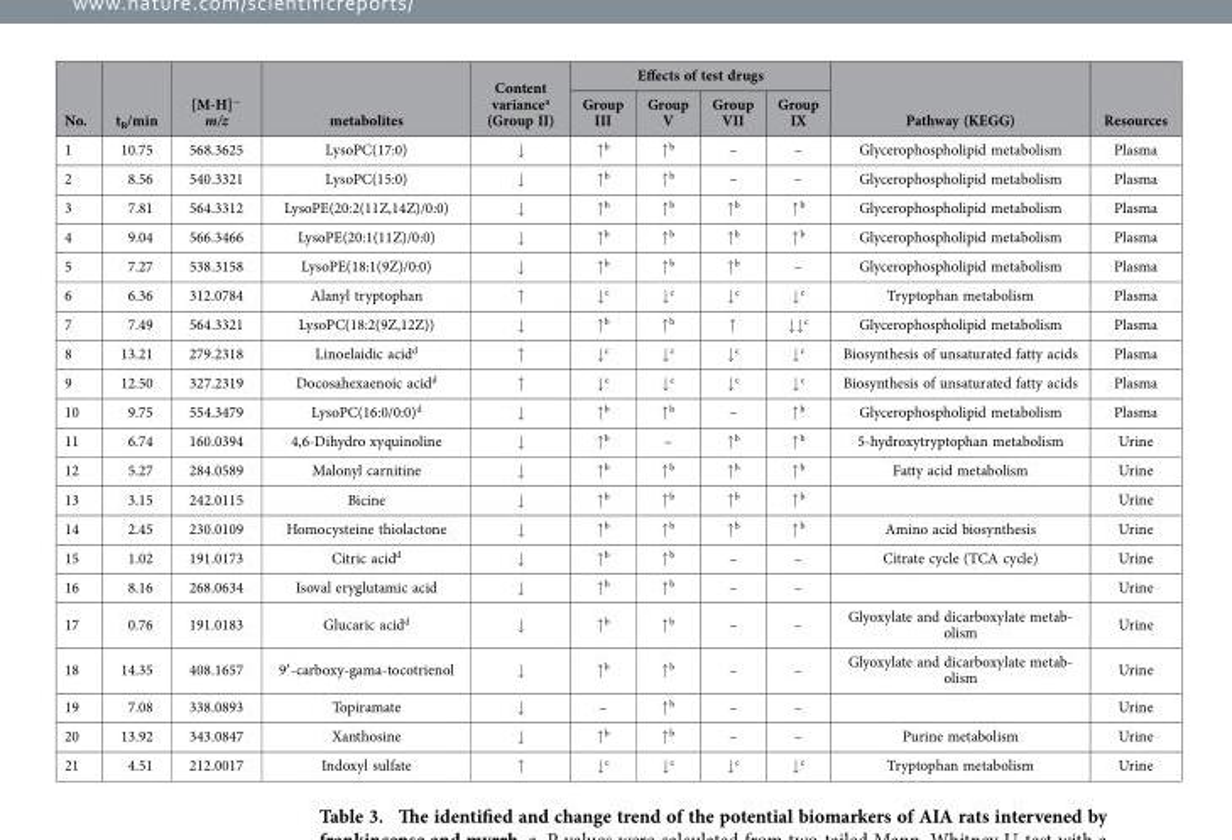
<table><thead><tr><td rowspan="2">No.</td><td rowspan="2">t<sub>R</sub>/min</td><td rowspan="2">[M-H]<sup>−</sup> m/z</td><td rowspan="2">metabolites</td><td rowspan="2">Content variance<sup>a</sup> (Group II)</td><td colspan="4">Effects of test drugs</td><td rowspan="2">Pathway (KEGG)</td><td rowspan="2">Resources</td></tr><tr><td>Group III</td><td>Group V</td><td>Group VII</td><td>Group IX</td></tr></thead><tbody><tr><td>1</td><td>10.75</td><td>568.3625</td><td>LysoPC(17:0)</td><td>↓</td><td>↑ <sup>b</sup></td><td>↑ <sup>b</sup></td><td>–</td><td>–</td><td>Glycerophospholipid metabolism</td><td>Plasma</td></tr><tr><td>2</td><td>8.56</td><td>540.3321</td><td>LysoPC(15:0)</td><td>↓</td><td>↑ <sup>b</sup></td><td>↑ <sup>b</sup></td><td>–</td><td>–</td><td>Glycerophospholipid metabolism</td><td>Plasma</td></tr><tr><td>3</td><td>7.81</td><td>564.3312</td><td>LysoPE(20:2(11Z,14Z)/0:0)</td><td>↓</td><td>↑ <sup>b</sup></td><td>↑ <sup>b</sup></td><td>↑ <sup>b</sup></td><td>↑ <sup>b</sup></td><td>Glycerophospholipid metabolism</td><td>Plasma</td></tr><tr><td>4</td><td>9.04</td><td>566.3466</td><td>LysoPE(20:1(11Z)/0:0)</td><td>↓</td><td>↑ <sup>b</sup></td><td>↑ <sup>b</sup></td><td>↑ <sup>b</sup></td><td>↑ <sup>b</sup></td><td>Glycerophospholipid metabolism</td><td>Plasma</td></tr><tr><td>5</td><td>7.27</td><td>538.3158</td><td>LysoPE(18:1(9Z)/0:0)</td><td>↓</td><td>↑ <sup>b</sup></td><td>↑ <sup>b</sup></td><td>↑ <sup>b</sup></td><td>–</td><td>Glycerophospholipid metabolism</td><td>Plasma</td></tr><tr><td>6</td><td>6.36</td><td>312.0784</td><td>Alanyl tryptophan</td><td>↑</td><td>↓ <sup>c</sup></td><td>↓ <sup>c</sup></td><td>↓ <sup>c</sup></td><td>↓ <sup>c</sup></td><td>Tryptophan metabolism</td><td>Plasma</td></tr><tr><td>7</td><td>7.49</td><td>564.3321</td><td>LysoPC(18:2(9Z,12Z))</td><td>↓</td><td>↑ <sup>b</sup></td><td>↑ <sup>b</sup></td><td>↑</td><td>↓ ↓ <sup>c</sup></td><td>Glycerophospholipid metabolism</td><td>Plasma</td></tr><tr><td>8</td><td>13.21</td><td>279.2318</td><td>Linoelaidic acid<sup>d</sup></td><td>↑</td><td>↓ <sup>c</sup></td><td>↓ <sup>c</sup></td><td>↓ <sup>c</sup></td><td>↓ <sup>c</sup></td><td>Biosynthesis of unsaturated fatty acids</td><td>Plasma</td></tr><tr><td>9</td><td>12.50</td><td>327.2319</td><td>Docosahexaenoic acid<sup>d</sup></td><td>↑</td><td>↓ <sup>c</sup></td><td>↓ <sup>c</sup></td><td>↓ <sup>c</sup></td><td>↓ <sup>c</sup></td><td>Biosynthesis of unsaturated fatty acids</td><td>Plasma</td></tr><tr><td>10</td><td>9.75</td><td>554.3479</td><td>LysoPC(16:0/0:0)<sup>d</sup></td><td>↓</td><td>↑ <sup>b</sup></td><td>↑ <sup>b</sup></td><td>–</td><td>↑ <sup>b</sup></td><td>Glycerophospholipid metabolism</td><td>Plasma</td></tr><tr><td>11</td><td>6.74</td><td>160.0394</td><td>4,6-Dihydro xyquinoline</td><td>↓</td><td>↑ <sup>b</sup></td><td>–</td><td>↑ <sup>b</sup></td><td>↑ <sup>b</sup></td><td>5-hydroxytryptophan metabolism</td><td>Urine</td></tr><tr><td>12</td><td>5.27</td><td>284.0589</td><td>Malonyl carnitine</td><td>↓</td><td>↑ <sup>b</sup></td><td>↑ <sup>b</sup></td><td>↑ <sup>b</sup></td><td>↑ <sup>b</sup></td><td>Fatty acid metabolism</td><td>Urine</td></tr><tr><td>13</td><td>3.15</td><td>242.0115</td><td>Bicine</td><td>↓</td><td>↑ <sup>b</sup></td><td>↑ <sup>b</sup></td><td>↑ <sup>b</sup></td><td>↑ <sup>b</sup></td><td></td><td>Urine</td></tr><tr><td>14</td><td>2.45</td><td>230.0109</td><td>Homocysteine thiolactone</td><td>↓</td><td>↑ <sup>b</sup></td><td>↑ <sup>b</sup></td><td>↑ <sup>b</sup></td><td>↑ <sup>b</sup></td><td>Amino acid biosynthesis</td><td>Urine</td></tr><tr><td>15</td><td>1.02</td><td>191.0173</td><td>Citric acid<sup>d</sup></td><td>↓</td><td>↑ <sup>b</sup></td><td>↑ <sup>b</sup></td><td>–</td><td>–</td><td>Citrate cycle (TCA cycle)</td><td>Urine</td></tr><tr><td>16</td><td>8.16</td><td>268.0634</td><td>Isoval eryglutamic acid</td><td>↓</td><td>↑ <sup>b</sup></td><td>↑ <sup>b</sup></td><td>–</td><td>–</td><td></td><td>Urine</td></tr><tr><td>17</td><td>0.76</td><td>191.0183</td><td>Glucaric acid<sup>d</sup></td><td>↓</td><td>↑ <sup>b</sup></td><td>↑ <sup>b</sup></td><td>–</td><td>–</td><td>Glyoxylate and dicarboxylate metab- olism</td><td>Urine</td></tr><tr><td>18</td><td>14.35</td><td>408.1657</td><td>9′ -carboxy-gama-tocotrienol</td><td>↓</td><td>↑ <sup>b</sup></td><td>↑ <sup>b</sup></td><td>–</td><td>–</td><td>Glyoxylate and dicarboxylate metab- olism</td><td>Urine</td></tr><tr><td>19</td><td>7.08</td><td>338.0893</td><td>Topiramate</td><td>↓</td><td>–</td><td>↑ <sup>b</sup></td><td>–</td><td>–</td><td></td><td>Urine</td></tr><tr><td>20</td><td>13.92</td><td>343.0847</td><td>Xanthosine</td><td>↓</td><td>↑ <sup>b</sup></td><td>↑ <sup>b</sup></td><td>–</td><td>–</td><td>Purine metabolism</td><td>Urine</td></tr><tr><td>21</td><td>4.51</td><td>212.0017</td><td>Indoxyl sulfate</td><td>↑</td><td>↓ <sup>c</sup></td><td>↓ <sup>c</sup></td><td>↓ <sup>c</sup></td><td>↓ <sup>c</sup></td><td>Tryptophan metabolism</td><td>Urine</td></tr></tbody></table>